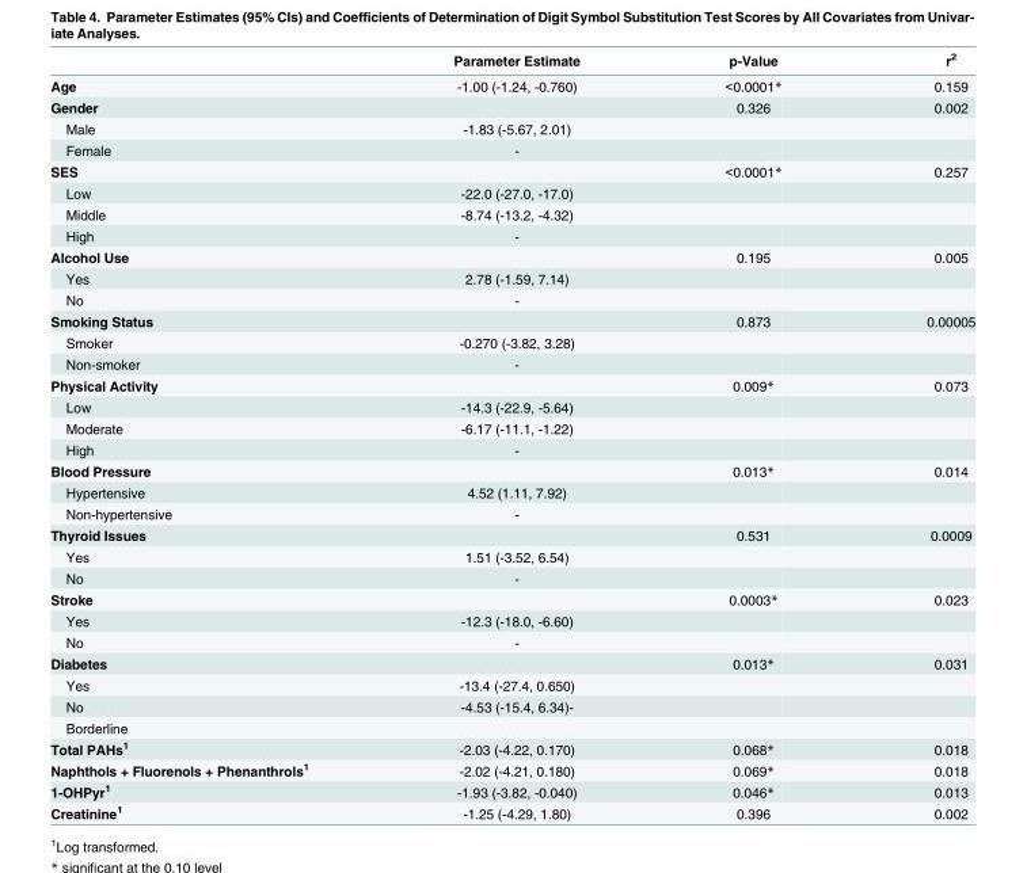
<table><thead><tr><td></td><td>Parameter Estimate</td><td>p-Value</td><td>r<sup>2</sup></td></tr></thead><tbody><tr><td>Age</td><td>-1.00 (-1.24, -0.760)</td><td>&lt;0.0001*</td><td>0.159</td></tr><tr><td>Gender</td><td></td><td>0.326</td><td>0.002</td></tr><tr><td>Male</td><td>-1.83 (-5.67, 2.01)</td><td></td><td></td></tr><tr><td>Female</td><td>-</td><td></td><td></td></tr><tr><td>SES</td><td></td><td>&lt;0.0001*</td><td>0.257</td></tr><tr><td>Low</td><td>-22.0 (-27.0, -17.0)</td><td></td><td></td></tr><tr><td>Middle</td><td>-8.74 (-13.2, -4.32)</td><td></td><td></td></tr><tr><td>High</td><td>-</td><td></td><td></td></tr><tr><td>Alcohol Use</td><td></td><td>0.195</td><td>0.005</td></tr><tr><td>Yes</td><td>2.78 (-1.59, 7.14)</td><td></td><td></td></tr><tr><td>No</td><td>-</td><td></td><td></td></tr><tr><td>Smoking Status</td><td></td><td>0.873</td><td>0.00005</td></tr><tr><td>Smoker</td><td>-0.270 (-3.82, 3.28)</td><td></td><td></td></tr><tr><td>Non-smoker</td><td>-</td><td></td><td></td></tr><tr><td>Physical Activity</td><td></td><td>0.009*</td><td>0.073</td></tr><tr><td>Low</td><td>-14.3 (-22.9, -5.64)</td><td></td><td></td></tr><tr><td>Moderate</td><td>-6.17 (-11.1, -1.22)</td><td></td><td></td></tr><tr><td>High</td><td>-</td><td></td><td></td></tr><tr><td>Blood Pressure</td><td></td><td>0.013*</td><td>0.014</td></tr><tr><td>Hypertensive</td><td>4.52 (1.11, 7.92)</td><td></td><td></td></tr><tr><td>Non-hypertensive</td><td>-</td><td></td><td></td></tr><tr><td>Thyroid Issues</td><td></td><td>0.531</td><td>0.0009</td></tr><tr><td>Yes</td><td>1.51 (-3.52, 6.54)</td><td></td><td></td></tr><tr><td>No</td><td>-</td><td></td><td></td></tr><tr><td>Stroke</td><td></td><td>0.0003*</td><td>0.023</td></tr><tr><td>Yes</td><td>-12.3 (-18.0, -6.60)</td><td></td><td></td></tr><tr><td>No</td><td>-</td><td></td><td></td></tr><tr><td>Diabetes</td><td></td><td>0.013*</td><td>0.031</td></tr><tr><td>Yes</td><td>-13.4 (-27.4, 0.650)</td><td></td><td></td></tr><tr><td>No</td><td>-4.53 (-15.4, 6.34)-</td><td></td><td></td></tr><tr><td colspan="4">Borderline</td></tr><tr><td>Total PAHs<sup>1</sup></td><td>-2.03 (-4.22, 0.170)</td><td>0.068*</td><td>0.018</td></tr><tr><td>Naphthols + Fluorenols + Phenanthrols<sup>1</sup></td><td>-2.02 (-4.21, 0.180)</td><td>0.069*</td><td>0.018</td></tr><tr><td>1-OHPyr<sup>1</sup></td><td>-1.93 (-3.82, -0.040)</td><td>0.046*</td><td>0.013</td></tr><tr><td>Creatinine<sup>1</sup></td><td>-1.25 (-4.29, 1.80)</td><td>0.396</td><td>0.002</td></tr></tbody></table>